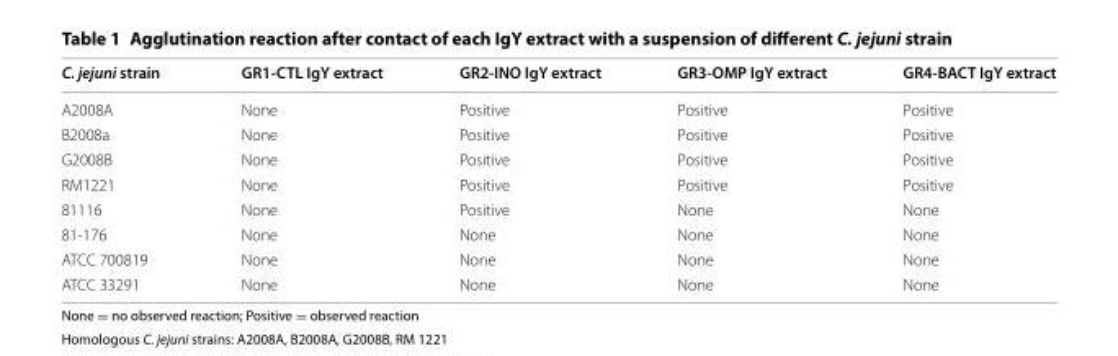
<table><thead><tr><td>C. jejuni strain</td><td>GR1‑CTL IgY extract</td><td>GR2‑INO IgY extract</td><td>GR3‑OMP IgY extract</td><td>GR4‑BACT IgY extract</td></tr></thead><tbody><tr><td>A2008A</td><td>None</td><td>Positive</td><td>Positive</td><td>Positive</td></tr><tr><td>B2008a</td><td>None</td><td>Positive</td><td>Positive</td><td>Positive</td></tr><tr><td>G2008B</td><td>None</td><td>Positive</td><td>Positive</td><td>Positive</td></tr><tr><td>RM1221</td><td>None</td><td>Positive</td><td>Positive</td><td>Positive</td></tr><tr><td>81116</td><td>None</td><td>Positive</td><td>None</td><td>None</td></tr><tr><td>81‑176</td><td>None</td><td>None</td><td>None</td><td>None</td></tr><tr><td>ATCC 700819</td><td>None</td><td>None</td><td>None</td><td>None</td></tr><tr><td>ATCC 33291</td><td>None</td><td>None</td><td>None</td><td>None</td></tr></tbody></table>